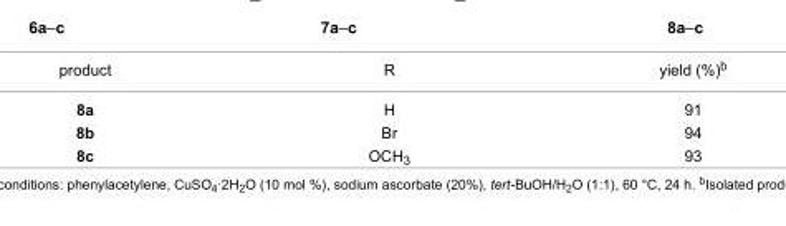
<table><tbody><tr><td>product</td><td>R</td><td>yield (%)<sup>b</sup></td></tr><tr><td>8a</td><td>H</td><td>91</td></tr><tr><td>8b</td><td>Br</td><td>94</td></tr><tr><td>8c</td><td>OCH<sub>3</sub></td><td>93</td></tr></tbody></table>